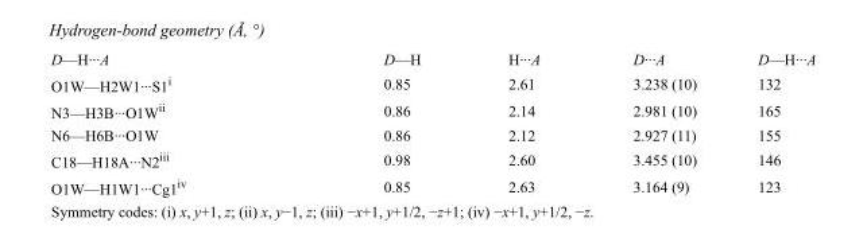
<table><tbody><tr><td>D—H···A</td><td>D—H</td><td>H···A</td><td>D···A</td><td>D—H···A</td></tr><tr><td>O1W—H2W1···S1<sup>i</sup></td><td>0.85</td><td>2.61</td><td>3.238 (10)</td><td>132</td></tr><tr><td>N3—H3B···O1W<sup>ii</sup></td><td>0.86</td><td>2.14</td><td>2.981 (10)</td><td>165</td></tr><tr><td>N6—H6B···O1W</td><td>0.86</td><td>2.12</td><td>2.927 (11)</td><td>155</td></tr><tr><td>C18—H18A···N2<sup>iii</sup></td><td>0.98</td><td>2.60</td><td>3.455 (10)</td><td>146</td></tr><tr><td>O1W—H1W1···Cg1<sup>iv</sup></td><td>0.85</td><td>2.63</td><td>3.164 (9)</td><td>123</td></tr></tbody></table>